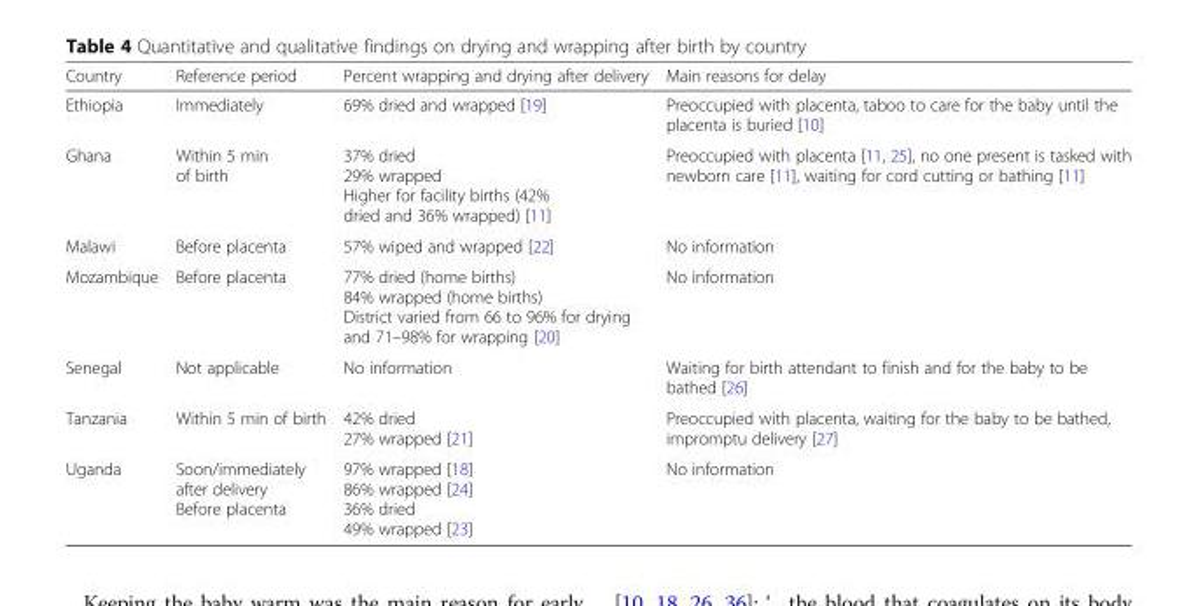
<table><thead><tr><td>Country</td><td>Reference period</td><td>Percent wrapping and drying after delivery</td><td>Main reasons for delay</td></tr></thead><tbody><tr><td>Ethiopia</td><td>Immediately</td><td>69% dried and wrapped [19]</td><td>Preoccupied with placenta, taboo to care for the baby until the placenta is buried [10]</td></tr><tr><td>Ghana</td><td>Within 5 min of birth</td><td>37% dried 29% wrapped Higher for facility births (42% dried and 36% wrapped) [11]</td><td>Preoccupied with placenta [11, 25], no one present is tasked with newborn care [11], waiting for cord cutting or bathing [11]</td></tr><tr><td>Malawi</td><td>Before placenta</td><td>57% wiped and wrapped [22]</td><td>No information</td></tr><tr><td>Mozambique</td><td>Before placenta</td><td>77% dried (home births) 84% wrapped (home births) District varied from 66 to 96% for drying and 71–98% for wrapping [20]</td><td>No information</td></tr><tr><td>Senegal</td><td>Not applicable</td><td>No information</td><td>Waiting for birth attendant to finish and for the baby to be bathed [26]</td></tr><tr><td>Tanzania</td><td>Within 5 min of birth</td><td>42% dried 27% wrapped [21]</td><td>Preoccupied with placenta, waiting for the baby to be bathed, impromptu delivery [27]</td></tr><tr><td>Uganda</td><td>Soon/immediately after delivery Before placenta</td><td>97% wrapped [18] 86% wrapped [24] 36% dried 49% wrapped [23]</td><td>No information</td></tr></tbody></table>